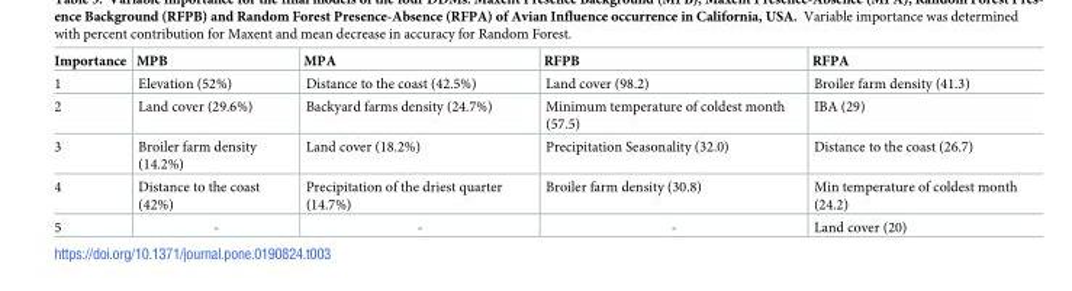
<table><thead><tr><td>Importance</td><td>MPB</td><td>MPA</td><td>RFPB</td><td>RFPA</td></tr></thead><tbody><tr><td>1</td><td>Elevation (52%)</td><td>Distance to the coast (42.5%)</td><td>Land cover (98.2)</td><td>Broiler farm density (41.3)</td></tr><tr><td>2</td><td>Land cover (29.6%)</td><td>Backyard farms density (24.7%)</td><td>Minimum temperature of coldest month (57.5)</td><td>IBA (29)</td></tr><tr><td>3</td><td>Broiler farm density (14.2%)</td><td>Land cover (18.2%)</td><td>Precipitation Seasonality (32.0)</td><td>Distance to the coast (26.7)</td></tr><tr><td>4</td><td>Distance to the coast (42%)</td><td>Precipitation of the driest quarter (14.7%)</td><td>Broiler farm density (30.8)</td><td>Min temperature of coldest month (24.2)</td></tr><tr><td>5</td><td>-</td><td>-</td><td>-</td><td>Land cover (20)</td></tr></tbody></table>